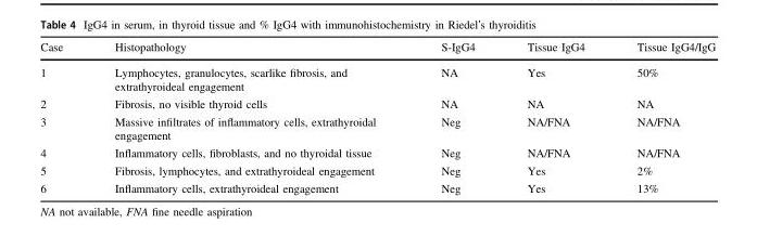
<table><thead><tr><td>Case</td><td>Histopathology</td><td>S-IgG4</td><td>Tissue IgG4</td><td>Tissue IgG4/IgG</td></tr></thead><tbody><tr><td>1</td><td>Lymphocytes, granulocytes, scarlike fibrosis, and extrathyroideal engagement</td><td>NA</td><td>Yes</td><td>50%</td></tr><tr><td>2</td><td>Fibrosis, no visible thyroid cells</td><td>NA</td><td>NA</td><td>NA</td></tr><tr><td>3</td><td>Massive infiltrates of inflammatory cells, extrathyroidal engagement</td><td>Neg</td><td>NA/FNA</td><td>NA/FNA</td></tr><tr><td>4</td><td>Inflammatory cells, fibroblasts, and no thyroidal tissue</td><td>Neg</td><td>NA/FNA</td><td>NA/FNA</td></tr><tr><td>5</td><td>Fibrosis, lymphocytes, and extrathyroideal engagement</td><td>Neg</td><td>Yes</td><td>2%</td></tr><tr><td>6</td><td>Inflammatory cells, extrathyroideal engagement</td><td>Neg</td><td>Yes</td><td>13%</td></tr></tbody></table>